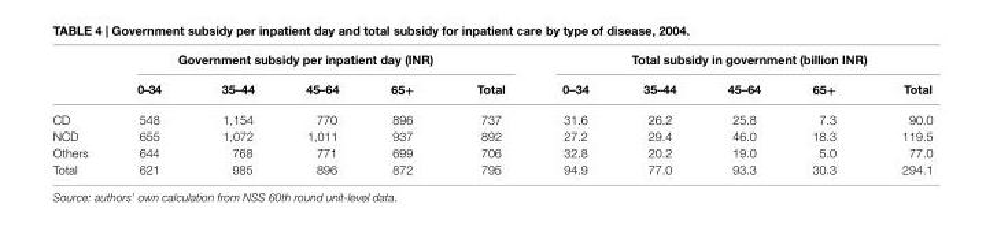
<table><thead><tr><td rowspan="2"></td><td colspan="5">government subsidy per inpatient day (inr)</td><td colspan="5">Total subsidy in government (billion inr)</td></tr><tr><td>0–34</td><td>35–44</td><td>45–64</td><td>65+</td><td>Total</td><td>0–34</td><td>35–44</td><td>45–64</td><td>65+</td><td>Total</td></tr></thead><tbody><tr><td>CD</td><td>548</td><td>1,154</td><td>770</td><td>896</td><td>737</td><td>31.6</td><td>26.2</td><td>25.8</td><td>7.3</td><td>90.0</td></tr><tr><td>NCD</td><td>655</td><td>1,072</td><td>1,011</td><td>937</td><td>892</td><td>27.2</td><td>29.4</td><td>46.0</td><td>18.3</td><td>119.5</td></tr><tr><td>Others</td><td>644</td><td>768</td><td>771</td><td>699</td><td>706</td><td>32.8</td><td>20.2</td><td>19.0</td><td>5.0</td><td>77.0</td></tr><tr><td>Total</td><td>621</td><td>985</td><td>896</td><td>872</td><td>795</td><td>94.9</td><td>77.0</td><td>93.3</td><td>30.3</td><td>294.1</td></tr></tbody></table>